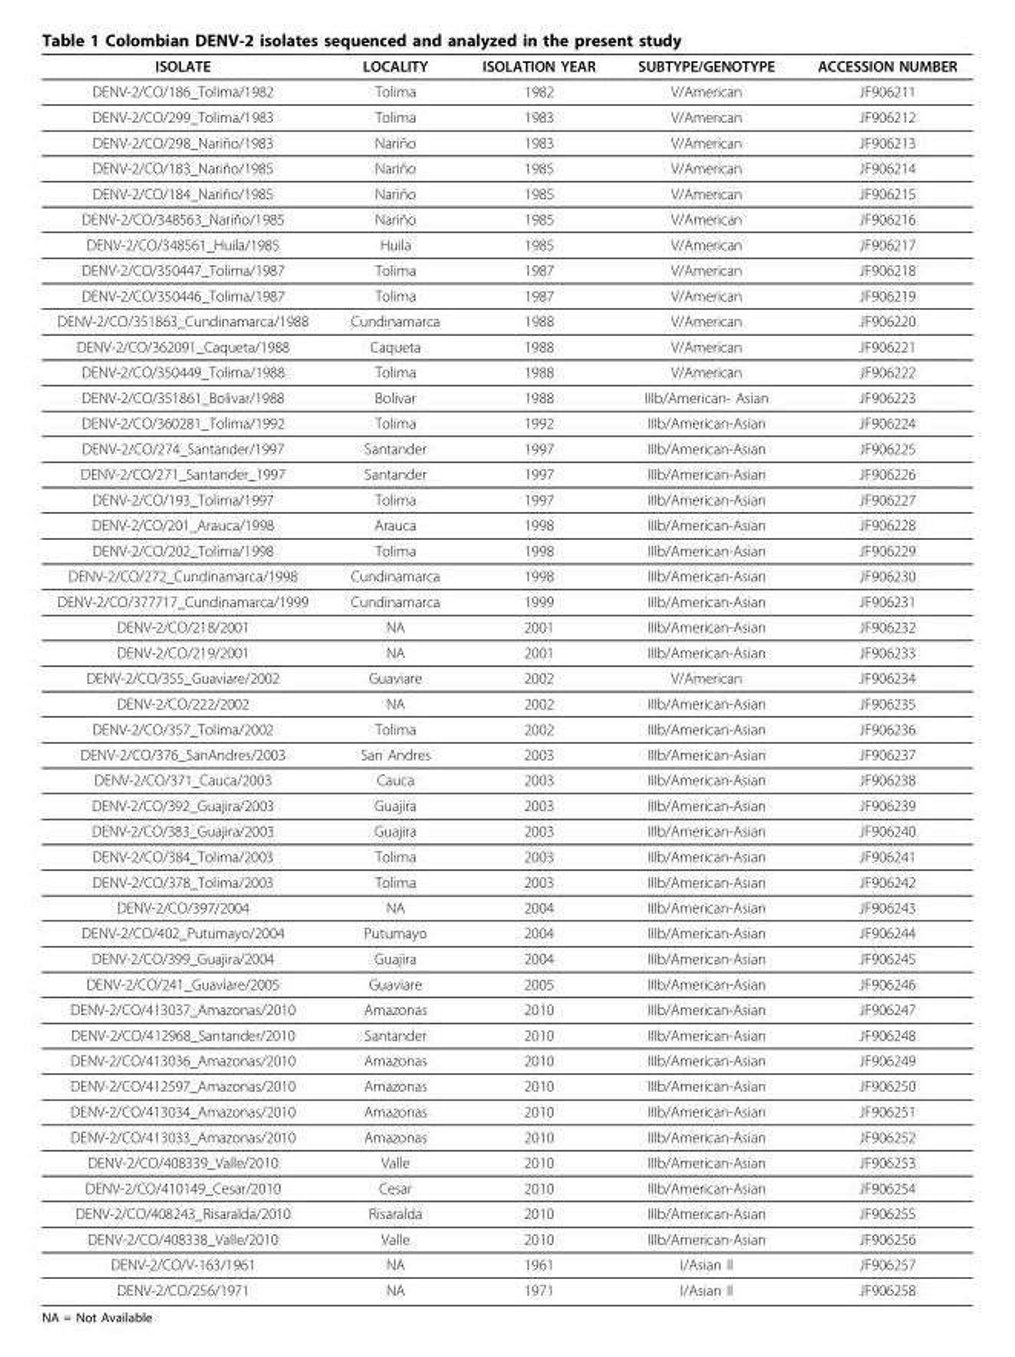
<table><thead><tr><td>ISOLATE</td><td>LOCALITY</td><td>ISOLATION YEAR</td><td>SUBTYPE/GENOTYPE</td><td>ACCESSION NUMBER</td></tr></thead><tbody><tr><td>DENV-2/CO/186_Tolima/1982</td><td>Tolima</td><td>1982</td><td>V/American</td><td>JF906211</td></tr><tr><td>DENV-2/CO/299_Tolima/1983</td><td>Tolima</td><td>1983</td><td>V/American</td><td>JF906212</td></tr><tr><td>DENV-2/CO/298_Nariño/1983</td><td>Nariño</td><td>1983</td><td>V/American</td><td>JF906213</td></tr><tr><td>DENV-2/CO/183_Nariño/1985</td><td>Nariño</td><td>1985</td><td>V/American</td><td>JF906214</td></tr><tr><td>DENV-2/CO/184_Nariño/1985</td><td>Nariño</td><td>1985</td><td>V/American</td><td>JF906215</td></tr><tr><td>DENV-2/CO/348563_Nariño/1985</td><td>Nariño</td><td>1985</td><td>V/American</td><td>JF906216</td></tr><tr><td>DENV-2/CO/348561_Huila/1985</td><td>Huila</td><td>1985</td><td>V/American</td><td>JF906217</td></tr><tr><td>DENV-2/CO/350447_Tolima/1987</td><td>Tolima</td><td>1987</td><td>V/American</td><td>JF906218</td></tr><tr><td>DENV-2/CO/350446_Tolima/1987</td><td>Tolima</td><td>1987</td><td>V/American</td><td>JF906219</td></tr><tr><td>DENV-2/CO/351863_Cundinamarca/1988</td><td>Cundinamarca</td><td>1988</td><td>V/American</td><td>JF906220</td></tr><tr><td>DENV-2/CO/362091_Caqueta/1988</td><td>Caqueta</td><td>1988</td><td>V/American</td><td>JF906221</td></tr><tr><td>DENV-2/CO/350449_Tolima/1988</td><td>Tolima</td><td>1988</td><td>V/American</td><td>JF906222</td></tr><tr><td>DENV-2/CO/351861_Bolivar/1988</td><td>Bolivar</td><td>1988</td><td>IIIb/American- Asian</td><td>JF906223</td></tr><tr><td>DENV-2/CO/360281_Tolima/1992</td><td>Tolima</td><td>1992</td><td>IIIb/American-Asian</td><td>JF906224</td></tr><tr><td>DENV-2/CO/274_Santander/1997</td><td>Santander</td><td>1997</td><td>IIIb/American-Asian</td><td>JF906225</td></tr><tr><td>DENV-2/CO/271_Santander_1997</td><td>Santander</td><td>1997</td><td>IIIb/American-Asian</td><td>JF906226</td></tr><tr><td>DENV-2/CO/193_Tolima/1997</td><td>Tolima</td><td>1997</td><td>IIIb/American-Asian</td><td>JF906227</td></tr><tr><td>DENV-2/CO/201_Arauca/1998</td><td>Arauca</td><td>1998</td><td>IIIb/American-Asian</td><td>JF906228</td></tr><tr><td>DENV-2/CO/202_Tolima/1998</td><td>Tolima</td><td>1998</td><td>IIIb/American-Asian</td><td>JF906229</td></tr><tr><td>DENV-2/CO/272_Cundinamarca/1998</td><td>Cundinamarca</td><td>1998</td><td>IIIb/American-Asian</td><td>JF906230</td></tr><tr><td>DENV-2/CO/377717_Cundinamarca/1999</td><td>Cundinamarca</td><td>1999</td><td>IIIb/American-Asian</td><td>JF906231</td></tr><tr><td>DENV-2/CO/218/2001</td><td>NA</td><td>2001</td><td>IIIb/American-Asian</td><td>JF906232</td></tr><tr><td>DENV-2/CO/219/2001</td><td>NA</td><td>2001</td><td>IIIb/American-Asian</td><td>JF906233</td></tr><tr><td>DENV-2/CO/355_Guaviare/2002</td><td>Guaviare</td><td>2002</td><td>V/American</td><td>JF906234</td></tr><tr><td>DENV-2/CO/222/2002</td><td>NA</td><td>2002</td><td>IIIb/American-Asian</td><td>JF906235</td></tr><tr><td>DENV-2/CO/357_Tolima/2002</td><td>Tolima</td><td>2002</td><td>IIIb/American-Asian</td><td>JF906236</td></tr><tr><td>DENV-2/CO/376_SanAndres/2003</td><td>San Andres</td><td>2003</td><td>IIIb/American-Asian</td><td>JF906237</td></tr><tr><td>DENV-2/CO/371_Cauca/2003</td><td>Cauca</td><td>2003</td><td>IIIb/American-Asian</td><td>JF906238</td></tr><tr><td>DENV-2/CO/392_Guajira/2003</td><td>Guajira</td><td>2003</td><td>IIIb/American-Asian</td><td>JF906239</td></tr><tr><td>DENV-2/CO/383_Guajira/2003</td><td>Guajira</td><td>2003</td><td>IIIb/American-Asian</td><td>JF906240</td></tr><tr><td>DENV-2/CO/384_Tolima/2003</td><td>Tolima</td><td>2003</td><td>IIIb/American-Asian</td><td>JF906241</td></tr><tr><td>DENV-2/CO/378_Tolima/2003</td><td>Tolima</td><td>2003</td><td>IIIb/American-Asian</td><td>JF906242</td></tr><tr><td>DENV-2/CO/397/2004</td><td>NA</td><td>2004</td><td>IIIb/American-Asian</td><td>JF906243</td></tr><tr><td>DENV-2/CO/402_Putumayo/2004</td><td>Putumayo</td><td>2004</td><td>IIIb/American-Asian</td><td>JF906244</td></tr><tr><td>DENV-2/CO/399_Guajira/2004</td><td>Guajira</td><td>2004</td><td>IIIb/American-Asian</td><td>JF906245</td></tr><tr><td>DENV-2/CO/241_Guaviare/2005</td><td>Guaviare</td><td>2005</td><td>IIIb/American-Asian</td><td>JF906246</td></tr><tr><td>DENV-2/CO/413037_Amazonas/2010</td><td>Amazonas</td><td>2010</td><td>IIIb/American-Asian</td><td>JF906247</td></tr><tr><td>DENV-2/CO/412968_Santander/2010</td><td>Santander</td><td>2010</td><td>IIIb/American-Asian</td><td>JF906248</td></tr><tr><td>DENV-2/CO/413036_Amazonas/2010</td><td>Amazonas</td><td>2010</td><td>IIIb/American-Asian</td><td>JF906249</td></tr><tr><td>DENV-2/CO/412597_Amazonas/2010</td><td>Amazonas</td><td>2010</td><td>IIIb/American-Asian</td><td>JF906250</td></tr><tr><td>DENV-2/CO/413034_Amazonas/2010</td><td>Amazonas</td><td>2010</td><td>IIIb/American-Asian</td><td>JF906251</td></tr><tr><td>DENV-2/CO/413033_Amazonas/2010</td><td>Amazonas</td><td>2010</td><td>IIIb/American-Asian</td><td>JF906252</td></tr><tr><td>DENV-2/CO/408339_Valle/2010</td><td>Valle</td><td>2010</td><td>IIIb/American-Asian</td><td>JF906253</td></tr><tr><td>DENV-2/CO/410149_Cesar/2010</td><td>Cesar</td><td>2010</td><td>IIIb/American-Asian</td><td>JF906254</td></tr><tr><td>DENV-2/CO/408243_Risaralda/2010</td><td>Risaralda</td><td>2010</td><td>IIIb/American-Asian</td><td>JF906255</td></tr><tr><td>DENV-2/CO/408338_Valle/2010</td><td>Valle</td><td>2010</td><td>IIIb/American-Asian</td><td>JF906256</td></tr><tr><td>DENV-2/CO/V-163/1961</td><td>NA</td><td>1961</td><td>I/Asian II</td><td>JF906257</td></tr><tr><td>DENV-2/CO/256/1971</td><td>NA</td><td>1971</td><td>I/Asian II</td><td>JF906258</td></tr></tbody></table>